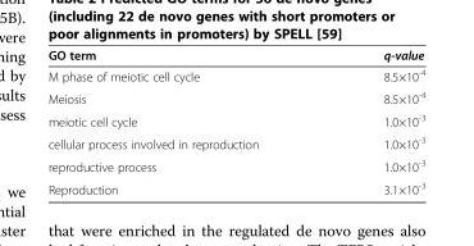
<table><thead><tr><td>GO term</td><td>q-value</td></tr></thead><tbody><tr><td>M phase of meiotic cell cycle</td><td>8.5×10<sup>-4</sup></td></tr><tr><td>Meiosis</td><td>8.5×10<sup>-4</sup></td></tr><tr><td>meiotic cell cycle</td><td>1.0×10<sup>-3</sup></td></tr><tr><td>cellular process involved in reproduction</td><td>1.0×10<sup>-3</sup></td></tr><tr><td>reproductive process</td><td>1.0×10<sup>-3</sup></td></tr><tr><td>Reproduction</td><td>3.1×10<sup>-3</sup></td></tr></tbody></table>